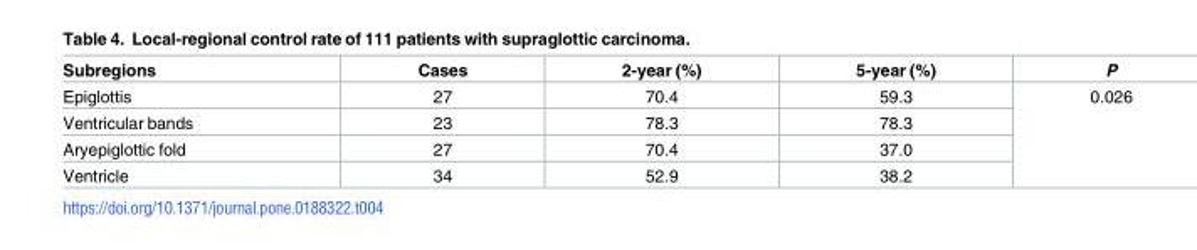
<table><thead><tr><td>Subregions</td><td>Cases</td><td>2-year (%)</td><td>5-year (%)</td><td>P</td></tr></thead><tbody><tr><td>Epiglottis</td><td>27</td><td>70.4</td><td>59.3</td><td rowspan="4">0.026</td></tr><tr><td>Ventricular bands</td><td>23</td><td>78.3</td><td>78.3</td></tr><tr><td>Aryepiglottic fold</td><td>27</td><td>70.4</td><td>37.0</td></tr><tr><td>Ventricle</td><td>34</td><td>52.9</td><td>38.2</td></tr></tbody></table>